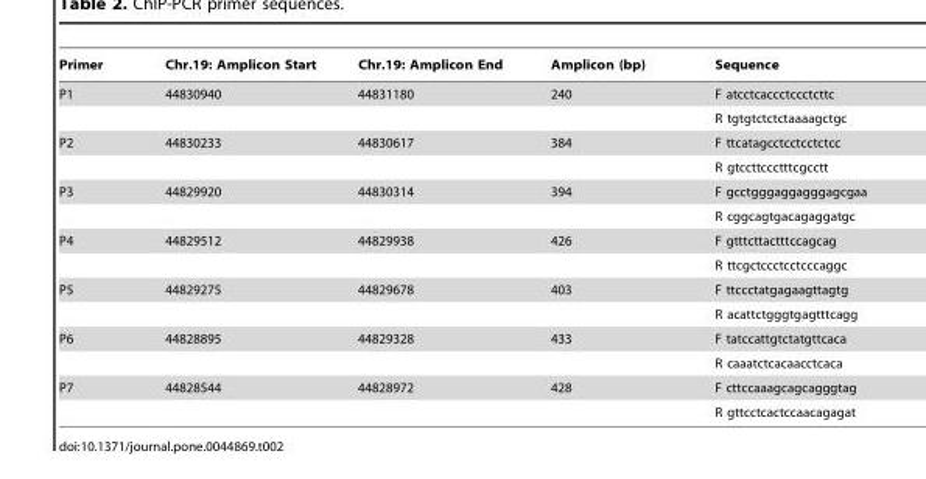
<table><thead><tr><td>Primer</td><td>Chr.19: Amplicon Start</td><td>Chr.19: Amplicon End</td><td>Amplicon (bp)</td><td>Sequence</td></tr></thead><tbody><tr><td rowspan="2">P1</td><td>44830940</td><td>44831180</td><td>240</td><td>F atcctcaccctccctcttc</td></tr><tr><td></td><td></td><td></td><td>R tgtgtctctctaaaagctgc</td></tr><tr><td rowspan="2">P2</td><td>44830233</td><td>44830617</td><td>384</td><td>F ttcatagcctcctcctctcc</td></tr><tr><td></td><td></td><td></td><td>R gtccttccctttcgcctt</td></tr><tr><td rowspan="2">P3</td><td>44829920</td><td>44830314</td><td>394</td><td>F gcctgggaggagggagcgaa</td></tr><tr><td></td><td></td><td></td><td>R cggcagtgacagaggatgc</td></tr><tr><td rowspan="2">P4</td><td>44829512</td><td>44829938</td><td>426</td><td>F gtttcttactttccagcag</td></tr><tr><td></td><td></td><td></td><td>R ttcgctccctcctcccaggc</td></tr><tr><td rowspan="2">P5</td><td>44829275</td><td>44829678</td><td>403</td><td>F ttccctatgagaagttagtg</td></tr><tr><td></td><td></td><td></td><td>R acattctgggtgagtttcagg</td></tr><tr><td rowspan="2">P6</td><td>44828895</td><td>44829328</td><td>433</td><td>F tatccattgtctatgttcaca</td></tr><tr><td></td><td></td><td></td><td>R caaatctcacaacctcaca</td></tr><tr><td rowspan="2">P7</td><td>44828544</td><td>44828972</td><td>428</td><td>F cttccaaagcagcagggtag</td></tr><tr><td></td><td></td><td></td><td>R gttcctcactccaacagagat</td></tr></tbody></table>